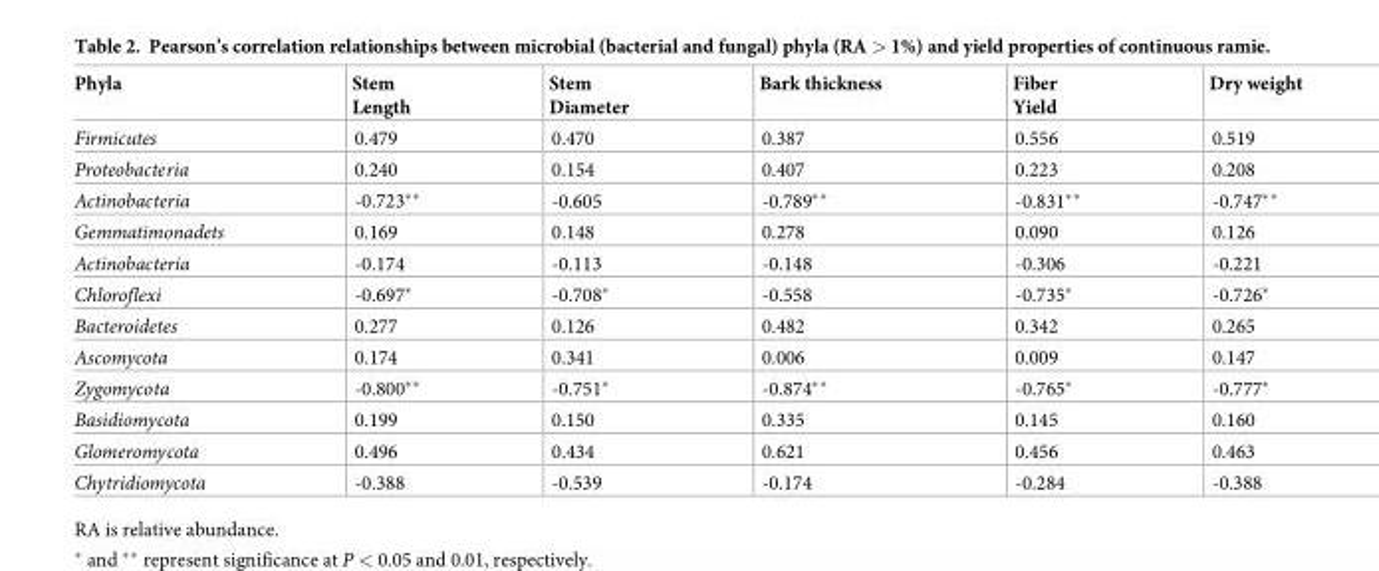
<table><thead><tr><td>Phyla</td><td>Stem Length</td><td>Stem Diameter</td><td>Bark thickness</td><td>Fiber Yield</td><td>Dry weight</td></tr></thead><tbody><tr><td>Firmicutes</td><td>0.479</td><td>0.470</td><td>0.387</td><td>0.556</td><td>0.519</td></tr><tr><td>Proteobacteria</td><td>0.240</td><td>0.154</td><td>0.407</td><td>0.223</td><td>0.208</td></tr><tr><td>Actinobacteria</td><td>-0.723**</td><td>-0.605</td><td>-0.789**</td><td>-0.831**</td><td>-0.747**</td></tr><tr><td>Gemmatimonadets</td><td>0.169</td><td>0.148</td><td>0.278</td><td>0.090</td><td>0.126</td></tr><tr><td>Actinobacteria</td><td>-0.174</td><td>-0.113</td><td>-0.148</td><td>-0.306</td><td>-0.221</td></tr><tr><td>Chloroflexi</td><td>-0.697*</td><td>-0.708*</td><td>-0.558</td><td>-0.735*</td><td>-0.726*</td></tr><tr><td>Bacteroidetes</td><td>0.277</td><td>0.126</td><td>0.482</td><td>0.342</td><td>0.265</td></tr><tr><td>Ascomycota</td><td>0.174</td><td>0.341</td><td>0.006</td><td>0.009</td><td>0.147</td></tr><tr><td>Zygomycota</td><td>-0.800**</td><td>-0.751*</td><td>-0.874**</td><td>-0.765*</td><td>-0.777*</td></tr><tr><td>Basidiomycota</td><td>0.199</td><td>0.150</td><td>0.335</td><td>0.145</td><td>0.160</td></tr><tr><td>Glomeromycota</td><td>0.496</td><td>0.434</td><td>0.621</td><td>0.456</td><td>0.463</td></tr><tr><td>Chytridiomycota</td><td>-0.388</td><td>-0.539</td><td>-0.174</td><td>-0.284</td><td>-0.388</td></tr></tbody></table>